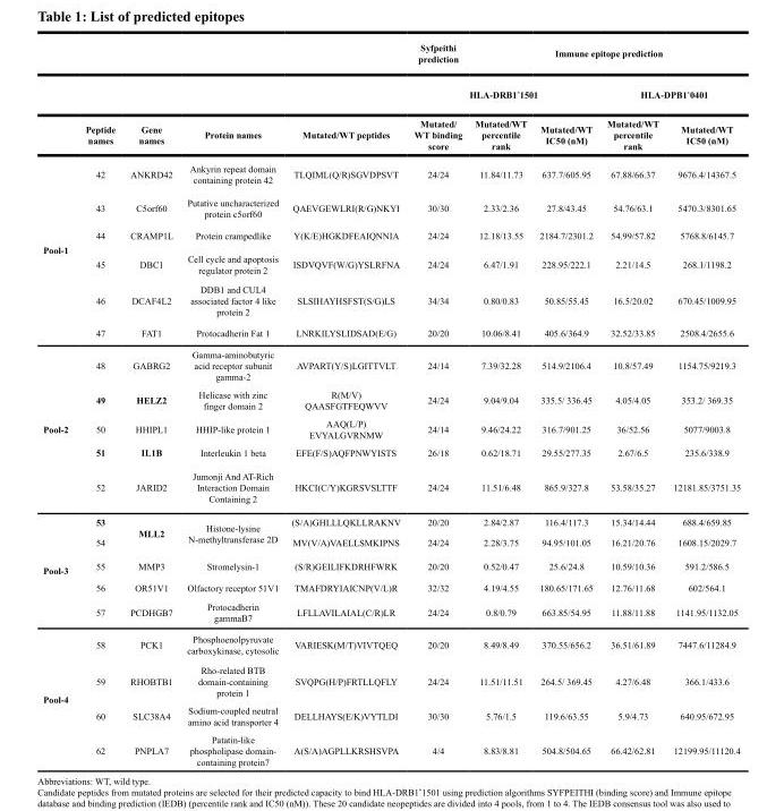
<table><thead><tr><td rowspan="3"></td><td rowspan="3">Peptide names</td><td rowspan="3">Gene names</td><td rowspan="3">Protein names</td><td rowspan="3">Mutated/WT peptides</td><td>Syfpeithi prediction</td><td colspan="4">Immune epitope prediction</td></tr><tr><td colspan="3">HLA-DRB1*1501</td><td colspan="2">HLA-DPB1*0401</td></tr><tr><td>Mutated/ WT binding score</td><td>Mutated/WT percentile rank</td><td>Mutated/WT IC50 (nM)</td><td>Mutated/WT percentile rank</td><td>Mutated/WT IC50 (nM)</td></tr></thead><tbody><tr><td rowspan="6">Pool-1</td><td>42</td><td>ANKRD42</td><td>Ankyrin repeat domain containing protein 42</td><td>TLQIML(Q/R)SGVDPSVT</td><td>24/24</td><td>11.84/11.73</td><td>637.7/605.95</td><td>67.88/66.37</td><td>9676.4/14367.5</td></tr><tr><td>43</td><td>C5orf60</td><td>Putative uncharacterized protein c5orf60</td><td>QAEVGEWLRI(R/G)NKYI</td><td>30/30</td><td>2.33/2.36</td><td>27.8/43.45</td><td>54.76/63.1</td><td>5470.3/8301.65</td></tr><tr><td>44</td><td>CRAMP1L</td><td>Protein crampedlike</td><td>Y(K/E)HGKDFEAIQNNIA</td><td>24/24</td><td>12.18/13.55</td><td>2184.7/2301.2</td><td>54.99/57.82</td><td>5768.8/6145.7</td></tr><tr><td>45</td><td>DBC1</td><td>Cell cycle and apoptosis regulator protein 2</td><td>ISDVQVF(W/G)YSLRFNA</td><td>24/24</td><td>6.47/1.91</td><td>228.95/222.1</td><td>2.21/14.5</td><td>268.1/1198.2</td></tr><tr><td>46</td><td>DCAF4L2</td><td>DDB1 and CUL4 associated factor 4 like protein 2</td><td>SLSIHAYHSFST(S/G)LS</td><td>34/34</td><td>0.80/0.83</td><td>50.85/55.45</td><td>16.5/20.02</td><td>670.45/1009.95</td></tr><tr><td>47</td><td>FAT1</td><td>Protocadherin Fat 1</td><td>LNRKILYSLIDSAD(E/G)</td><td>20/20</td><td>10.06/8.41</td><td>405.6/364.9</td><td>32.52/33.85</td><td>2508.4/2655.6</td></tr><tr><td rowspan="5">Pool-2</td><td>48</td><td>GABRG2</td><td>Gamma-aminobutyric acid receptor subunit gamma-2</td><td>AVPART(Y/S)LGITTVLT</td><td>24/14</td><td>7.39/32.28</td><td>514.9/2106.4</td><td>10.8/57.49</td><td>1154.75/9219.3</td></tr><tr><td>49</td><td>HELZ2</td><td>Helicase with zinc finger domain 2</td><td>R(M/V) QAASFGTFEQWVV</td><td>24/24</td><td>9.04/9.04</td><td>335.5/ 336.45</td><td>4.05/4.05</td><td>353.2/ 369.35</td></tr><tr><td>50</td><td>HHIPL1</td><td>HHIP-like protein 1</td><td>AAQ(L/P) EVYALGVRNMW</td><td>24/14</td><td>9.46/24.22</td><td>316.7/901.25</td><td>36/52.56</td><td>5077/9003.8</td></tr><tr><td>51</td><td>IL1B</td><td>Interleukin 1 beta</td><td>EFE(F/S)AQFPNWYISTS</td><td>26/18</td><td>0.62/18.71</td><td>29.55/277.35</td><td>2.67/6.5</td><td>235.6/338.9</td></tr><tr><td>52</td><td>JARID2</td><td>Jumonji And AT-Rich Interaction Domain Containing 2</td><td>HKCI(C/Y)KGRSVSLTTF</td><td>24/24</td><td>11.51/6.48</td><td>865.9/327.8</td><td>53.58/35.27</td><td>12181.85/3751.35</td></tr><tr><td rowspan="5">Pool-3</td><td>53</td><td rowspan="2">MLL2</td><td rowspan="2">Histone-lysine N-methyltransferase 2D</td><td>(S/A)GHLLLQKLLRAKNV</td><td>20/20</td><td>2.84/2.87</td><td>116.4/117.3</td><td>15.34/14.44</td><td>688.4/659.85</td></tr><tr><td>54</td><td>MV(V/A)VAELLSMKIPNS</td><td>24/24</td><td>2.28/3.75</td><td>94.95/101.05</td><td>16.21/20.76</td><td>1608.15/2029.7</td></tr><tr><td>55</td><td>MMP3</td><td>Stromelysin-1</td><td>(S/R)GEILIFKDRHFWRK</td><td>20/20</td><td>0.52/0.47</td><td>25.6/24.8</td><td>10.59/10.36</td><td>591.2/586.5</td></tr><tr><td>56</td><td>OR51V1</td><td>Olfactory receptor 51V1</td><td>TMAFDRYIAICNP(V/L)R</td><td>32/32</td><td>4.19/4.55</td><td>180.65/171.65</td><td>12.76/11.68</td><td>602/564.1</td></tr><tr><td>57</td><td>PCDHGB7</td><td>Protocadherin gammaB7</td><td>LFLLAVILAIAL(C/R)LR</td><td>24/24</td><td>0.8/0.79</td><td>663.85/54.95</td><td>11.88/11.88</td><td>1141.95/1132.05</td></tr><tr><td rowspan="4">Pool-4</td><td>58</td><td>PCK1</td><td>Phosphoenolpyruvate carboxykinase, cytosolic</td><td>VARIESK(M/T)VIVTQEQ</td><td>20/20</td><td>8.49/8.49</td><td>370.55/656.2</td><td>36.51/61.89</td><td>7447.6/11284.9</td></tr><tr><td>59</td><td>RHOBTB1</td><td>Rho-related BTB domain-containing protein 1</td><td>SVQPG(H/P)FRTLLQFLY</td><td>24/24</td><td>11.51/11.51</td><td>264.5/ 369.45</td><td>4.27/6.48</td><td>366.1/433.6</td></tr><tr><td>60</td><td>SLC38A4</td><td>Sodium-coupled neutral amino acid transporter 4</td><td>DELLHAYS(E/K)VYTLDI</td><td>30/30</td><td>5.76/1.5</td><td>119.6/63.55</td><td>5.9/4.73</td><td>640.95/672.95</td></tr><tr><td>62</td><td>PNPLA7</td><td>Patatin-like phospholipase domain- containing protein7</td><td>A(S/A)AGPLLKRSHSVPA</td><td>4/4</td><td>8.83/8.81</td><td>504.8/504.65</td><td>66.42/62.81</td><td>12199.95/11120.4</td></tr></tbody></table>